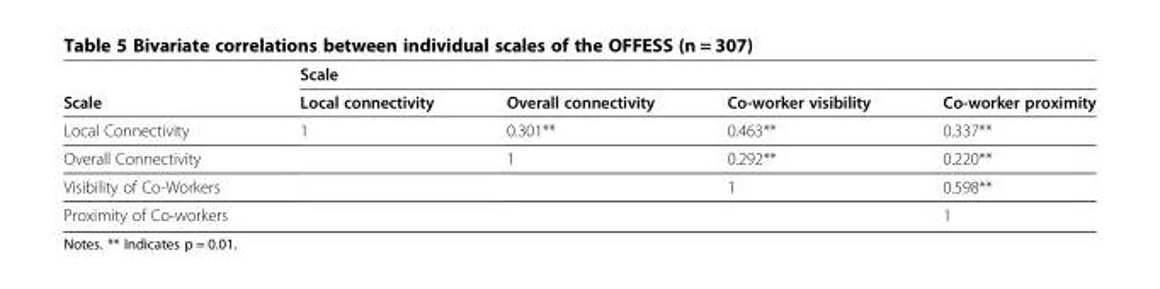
<table><thead><tr><td rowspan="2">Scale</td><td colspan="4">Scale</td></tr><tr><td>Local connectivity</td><td>Overall connectivity</td><td>Co-worker visibility</td><td>Co-worker proximity</td></tr></thead><tbody><tr><td>Local Connectivity</td><td>1</td><td>0.301**</td><td>0.463**</td><td>0.337**</td></tr><tr><td>Overall Connectivity</td><td></td><td>1</td><td>0.292**</td><td>0.220**</td></tr><tr><td>Visibility of Co-Workers</td><td></td><td></td><td>1</td><td>0.598**</td></tr><tr><td>Proximity of Co-workers</td><td></td><td></td><td></td><td>1</td></tr></tbody></table>